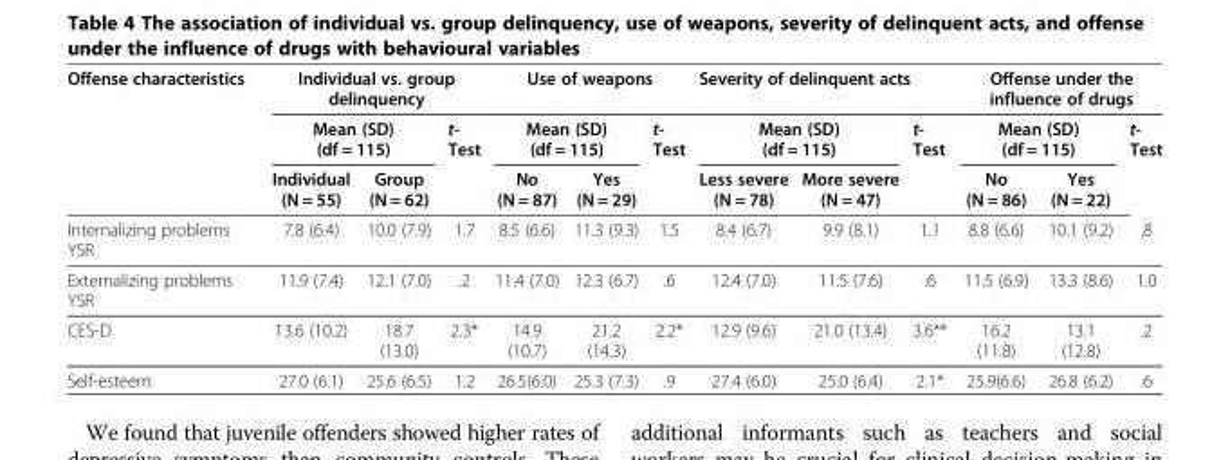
<table><thead><tr><td rowspan="3">Offense characteristics</td><td colspan="3">Individual vs. group delinquency</td><td colspan="3">Use of weapons</td><td colspan="3">Severity of delinquent acts</td><td colspan="3">Offense under the influence of drugs</td></tr><tr><td colspan="2">Mean (SD) (df = 115)</td><td rowspan="2">t- Test</td><td colspan="2">Mean (SD) (df = 115)</td><td rowspan="2">t- Test</td><td colspan="2">Mean (SD) (df = 115)</td><td rowspan="2">t- Test</td><td colspan="2">Mean (SD) (df = 115)</td><td rowspan="2">t- Test</td></tr><tr><td>Individual (N = 55)</td><td>Group (N = 62)</td><td>No (N = 87)</td><td>Yes (N = 29)</td><td>Less severe (N = 78)</td><td>More severe (N = 47)</td><td>No (N = 86)</td><td>Yes (N = 22)</td></tr></thead><tbody><tr><td>Internalizing problems YSR</td><td>7.8 (6.4)</td><td>10.0 (7.9)</td><td>1.7</td><td>8.5 (6.6)</td><td>11.3 (9.3)</td><td>1.5</td><td>8.4 (6.7)</td><td>9.9 (8.1)</td><td>1.1</td><td>8.8 (6.6)</td><td>10.1 (9.2)</td><td>.8</td></tr><tr><td>Externalizing problems YSR</td><td>11.9 (7.4)</td><td>12.1 (7.0)</td><td>.2</td><td>11.4 (7.0)</td><td>12.3 (6.7)</td><td>.6</td><td>12.4 (7.0)</td><td>11.5 (7.6)</td><td>.6</td><td>11.5 (6.9)</td><td>13.3 (8.6)</td><td>1.0</td></tr><tr><td>CES-D</td><td>13.6 (10.2)</td><td>18.7 (13.0)</td><td>2.3*</td><td>14.9 (10.7)</td><td>21.2 (14.3)</td><td>2.2*</td><td>12.9 (9.6)</td><td>21.0 (13.4)</td><td>3.6**</td><td>16.2 (11.8)</td><td>13.1 (12.8)</td><td>.2</td></tr><tr><td>Self-esteem</td><td>27.0 (6.1)</td><td>25.6 (6.5)</td><td>1.2</td><td>26.5(6.0)</td><td>25.3 (7.3)</td><td>.9</td><td>27.4 (6.0)</td><td>25.0 (6.4)</td><td>2.1*</td><td>25.9(6.6)</td><td>26.8 (6.2)</td><td>.6</td></tr></tbody></table>